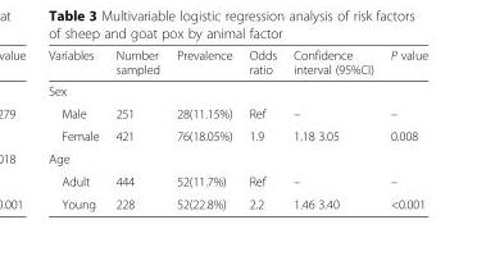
<table><thead><tr><td>Variables</td><td>Number sampled</td><td>Prevalence</td><td>Odds ratio</td><td>Confidence interval (95%CI)</td><td>P value</td></tr></thead><tbody><tr><td colspan="6">Sex</td></tr><tr><td>Male</td><td>251</td><td>28(11.15%)</td><td>Ref</td><td>–</td><td>–</td></tr><tr><td>Female</td><td>421</td><td>76(18.05%)</td><td>1.9</td><td>1.18 3.05</td><td>0.008</td></tr><tr><td colspan="6">Age</td></tr><tr><td>Adult</td><td>444</td><td>52(11.7%)</td><td>Ref</td><td>–</td><td>–</td></tr><tr><td>Young</td><td>228</td><td>52(22.8%)</td><td>2.2</td><td>1.46 3.40</td><td>&lt;0.001</td></tr></tbody></table>